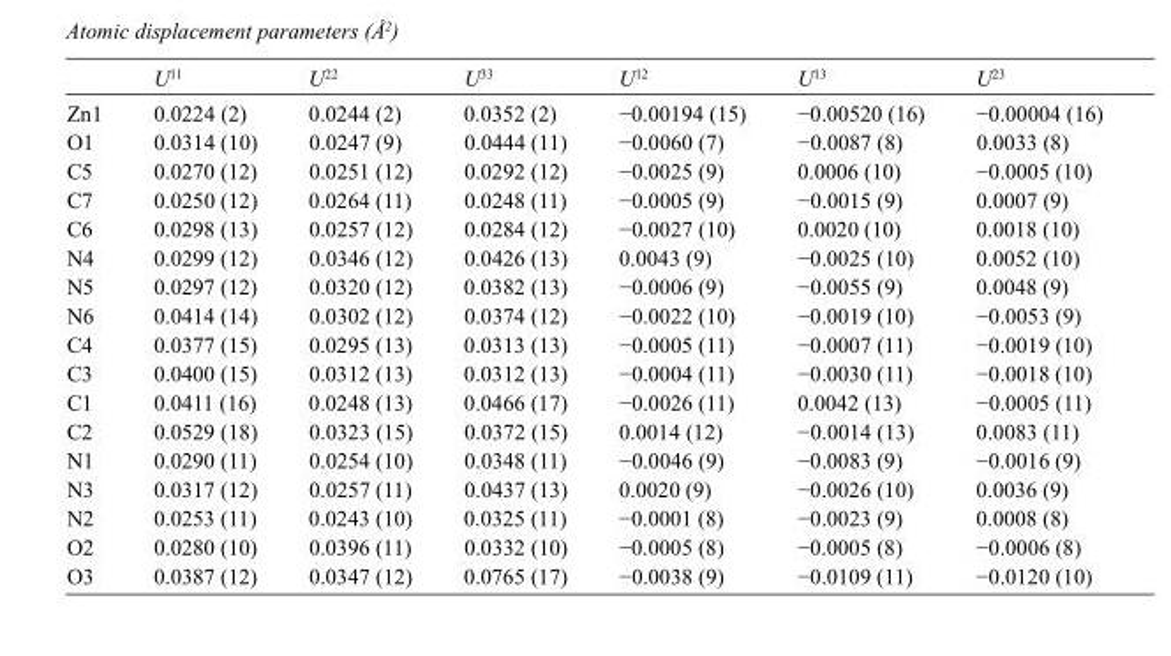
<table><thead><tr><td></td><td>U<sup>11</sup></td><td>U<sup>22</sup></td><td>U<sup>33</sup></td><td>U<sup>12</sup></td><td>U<sup>13</sup></td><td>U<sup>23</sup></td></tr></thead><tbody><tr><td>Zn1</td><td>0.0224 (2)</td><td>0.0244 (2)</td><td>0.0352 (2)</td><td>−0.00194 (15)</td><td>−0.00520 (16)</td><td>−0.00004 (16)</td></tr><tr><td>O1</td><td>0.0314 (10)</td><td>0.0247 (9)</td><td>0.0444 (11)</td><td>−0.0060 (7)</td><td>−0.0087 (8)</td><td>0.0033 (8)</td></tr><tr><td>C5</td><td>0.0270 (12)</td><td>0.0251 (12)</td><td>0.0292 (12)</td><td>−0.0025 (9)</td><td>0.0006 (10)</td><td>−0.0005 (10)</td></tr><tr><td>C7</td><td>0.0250 (12)</td><td>0.0264 (11)</td><td>0.0248 (11)</td><td>−0.0005 (9)</td><td>−0.0015 (9)</td><td>0.0007 (9)</td></tr><tr><td>C6</td><td>0.0298 (13)</td><td>0.0257 (12)</td><td>0.0284 (12)</td><td>−0.0027 (10)</td><td>0.0020 (10)</td><td>0.0018 (10)</td></tr><tr><td>N4</td><td>0.0299 (12)</td><td>0.0346 (12)</td><td>0.0426 (13)</td><td>0.0043 (9)</td><td>−0.0025 (10)</td><td>0.0052 (10)</td></tr><tr><td>N5</td><td>0.0297 (12)</td><td>0.0320 (12)</td><td>0.0382 (13)</td><td>−0.0006 (9)</td><td>−0.0055 (9)</td><td>0.0048 (9)</td></tr><tr><td>N6</td><td>0.0414 (14)</td><td>0.0302 (12)</td><td>0.0374 (12)</td><td>−0.0022 (10)</td><td>−0.0019 (10)</td><td>−0.0053 (9)</td></tr><tr><td>C4</td><td>0.0377 (15)</td><td>0.0295 (13)</td><td>0.0313 (13)</td><td>−0.0005 (11)</td><td>−0.0007 (11)</td><td>−0.0019 (10)</td></tr><tr><td>C3</td><td>0.0400 (15)</td><td>0.0312 (13)</td><td>0.0312 (13)</td><td>−0.0004 (11)</td><td>−0.0030 (11)</td><td>−0.0018 (10)</td></tr><tr><td>C1</td><td>0.0411 (16)</td><td>0.0248 (13)</td><td>0.0466 (17)</td><td>−0.0026 (11)</td><td>0.0042 (13)</td><td>−0.0005 (11)</td></tr><tr><td>C2</td><td>0.0529 (18)</td><td>0.0323 (15)</td><td>0.0372 (15)</td><td>0.0014 (12)</td><td>−0.0014 (13)</td><td>0.0083 (11)</td></tr><tr><td>N1</td><td>0.0290 (11)</td><td>0.0254 (10)</td><td>0.0348 (11)</td><td>−0.0046 (9)</td><td>−0.0083 (9)</td><td>−0.0016 (9)</td></tr><tr><td>N3</td><td>0.0317 (12)</td><td>0.0257 (11)</td><td>0.0437 (13)</td><td>0.0020 (9)</td><td>−0.0026 (10)</td><td>0.0036 (9)</td></tr><tr><td>N2</td><td>0.0253 (11)</td><td>0.0243 (10)</td><td>0.0325 (11)</td><td>−0.0001 (8)</td><td>−0.0023 (9)</td><td>0.0008 (8)</td></tr><tr><td>O2</td><td>0.0280 (10)</td><td>0.0396 (11)</td><td>0.0332 (10)</td><td>−0.0005 (8)</td><td>−0.0005 (8)</td><td>−0.0006 (8)</td></tr><tr><td>O3</td><td>0.0387 (12)</td><td>0.0347 (12)</td><td>0.0765 (17)</td><td>−0.0038 (9)</td><td>−0.0109 (11)</td><td>−0.0120 (10)</td></tr></tbody></table>